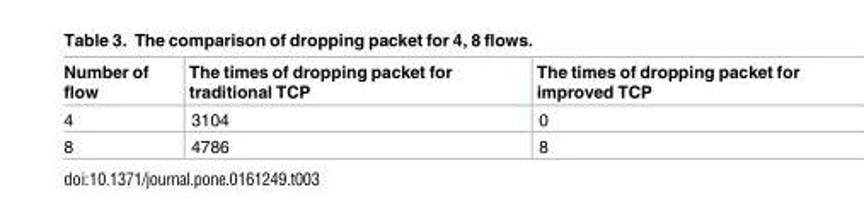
<table><thead><tr><td>Number of flow</td><td>The times of dropping packet for traditional TCP</td><td>The times of dropping packet for improved TCP</td></tr></thead><tbody><tr><td>4</td><td>3104</td><td>0</td></tr><tr><td>8</td><td>4786</td><td>8</td></tr></tbody></table>